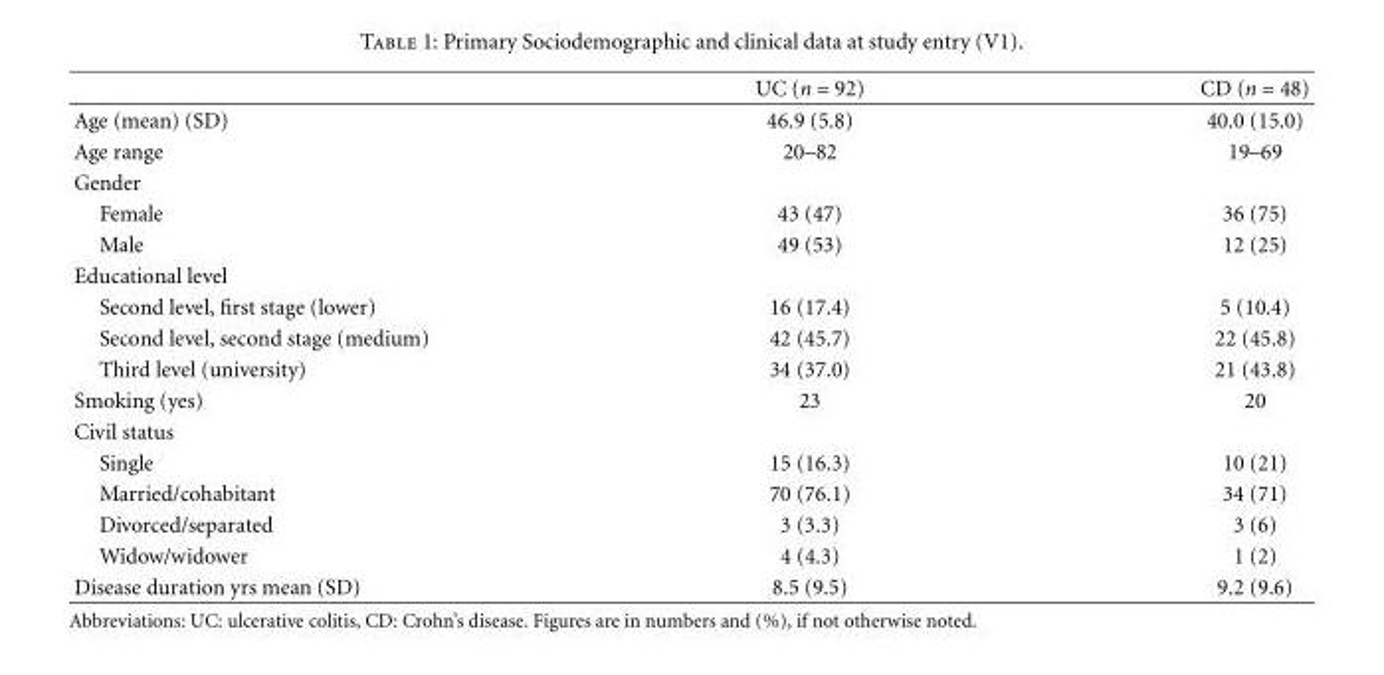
<table><thead><tr><td></td><td>UC (n = 92)</td><td>CD (n = 48)</td></tr></thead><tbody><tr><td>Age (mean) (SD)</td><td>46.9 (5.8)</td><td>40.0 (15.0)</td></tr><tr><td>Age range</td><td>20–82</td><td>19–69</td></tr><tr><td colspan="3">Gender</td></tr><tr><td>Female</td><td>43 (47)</td><td>36 (75)</td></tr><tr><td>Male</td><td>49 (53)</td><td>12 (25)</td></tr><tr><td colspan="3">Educational level</td></tr><tr><td>Second level, first stage (lower)</td><td>16 (17.4)</td><td>5 (10.4)</td></tr><tr><td>Second level, second stage (medium)</td><td>42 (45.7)</td><td>22 (45.8)</td></tr><tr><td>Third level (university)</td><td>34 (37.0)</td><td>21 (43.8)</td></tr><tr><td>Smoking (yes)</td><td>23</td><td>20</td></tr><tr><td colspan="3">Civil status</td></tr><tr><td>Single</td><td>15 (16.3)</td><td>10 (21)</td></tr><tr><td>Married/cohabitant</td><td>70 (76.1)</td><td>34 (71)</td></tr><tr><td>Divorced/separated</td><td>3 (3.3)</td><td>3 (6)</td></tr><tr><td>Widow/widower</td><td>4 (4.3)</td><td>1 (2)</td></tr><tr><td>Disease duration yrs mean (SD)</td><td>8.5 (9.5)</td><td>9.2 (9.6)</td></tr></tbody></table>